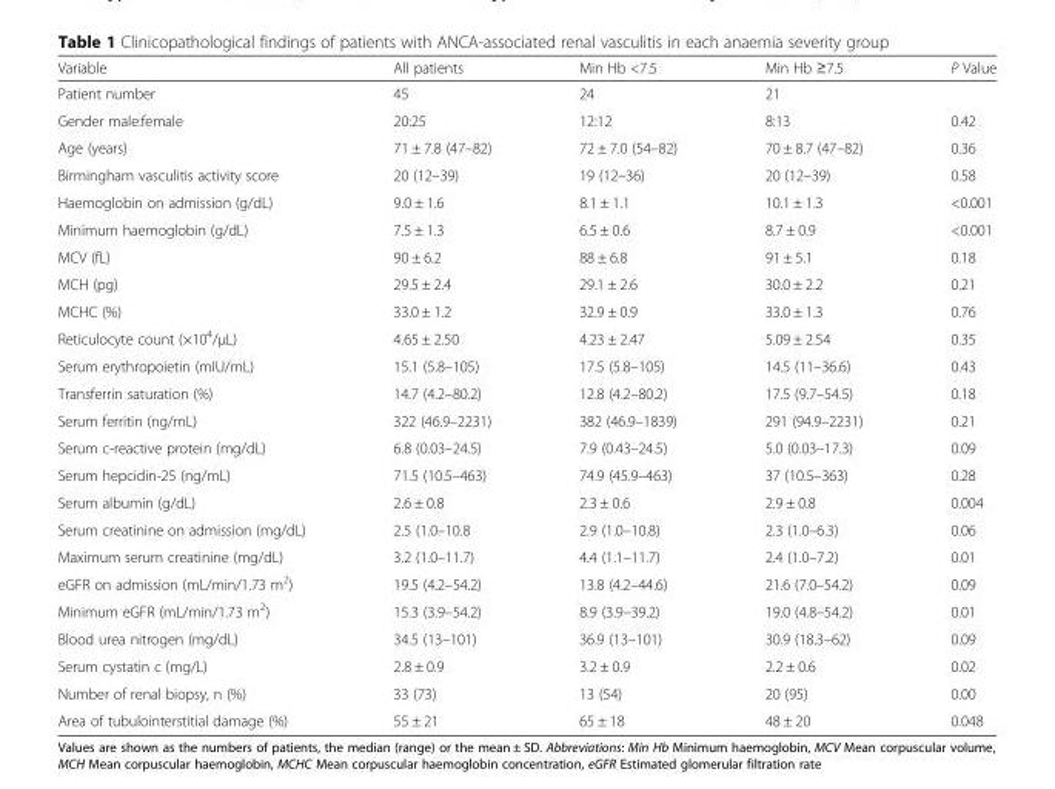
<table><thead><tr><td>Variable</td><td>All patients</td><td>Min Hb &lt;7.5</td><td>Min Hb ≥7.5</td><td>P Value</td></tr></thead><tbody><tr><td>Patient number</td><td>45</td><td>24</td><td>21</td><td></td></tr><tr><td>Gender male:female</td><td>20:25</td><td>12:12</td><td>8:13</td><td>0.42</td></tr><tr><td>Age (years)</td><td>71 ± 7.8 (47–82)</td><td>72 ± 7.0 (54–82)</td><td>70 ± 8.7 (47–82)</td><td>0.36</td></tr><tr><td>Birmingham vasculitis activity score</td><td>20 (12–39)</td><td>19 (12–36)</td><td>20 (12–39)</td><td>0.58</td></tr><tr><td>Haemoglobin on admission (g/dL)</td><td>9.0 ± 1.6</td><td>8.1 ± 1.1</td><td>10.1 ± 1.3</td><td>&lt;0.001</td></tr><tr><td>Minimum haemoglobin (g/dL)</td><td>7.5 ± 1.3</td><td>6.5 ± 0.6</td><td>8.7 ± 0.9</td><td>&lt;0.001</td></tr><tr><td>MCV (fL)</td><td>90 ± 6.2</td><td>88 ± 6.8</td><td>91 ± 5.1</td><td>0.18</td></tr><tr><td>MCH (pg)</td><td>29.5 ± 2.4</td><td>29.1 ± 2.6</td><td>30.0 ± 2.2</td><td>0.21</td></tr><tr><td>MCHC (%)</td><td>33.0 ± 1.2</td><td>32.9 ± 0.9</td><td>33.0 ± 1.3</td><td>0.76</td></tr><tr><td>Reticulocyte count (×10<sup>4</sup>/μL)</td><td>4.65 ± 2.50</td><td>4.23 ± 2.47</td><td>5.09 ± 2.54</td><td>0.35</td></tr><tr><td>Serum erythropoietin (mIU/mL)</td><td>15.1 (5.8–105)</td><td>17.5 (5.8–105)</td><td>14.5 (11–36.6)</td><td>0.43</td></tr><tr><td>Transferrin saturation (%)</td><td>14.7 (4.2–80.2)</td><td>12.8 (4.2–80.2)</td><td>17.5 (9.7–54.5)</td><td>0.18</td></tr><tr><td>Serum ferritin (ng/mL)</td><td>322 (46.9–2231)</td><td>382 (46.9–1839)</td><td>291 (94.9–2231)</td><td>0.21</td></tr><tr><td>Serum c-reactive protein (mg/dL)</td><td>6.8 (0.03–24.5)</td><td>7.9 (0.43–24.5)</td><td>5.0 (0.03–17.3)</td><td>0.09</td></tr><tr><td>Serum hepcidin-25 (ng/mL)</td><td>71.5 (10.5–463)</td><td>74.9 (45.9–463)</td><td>37 (10.5–363)</td><td>0.28</td></tr><tr><td>Serum albumin (g/dL)</td><td>2.6 ± 0.8</td><td>2.3 ± 0.6</td><td>2.9 ± 0.8</td><td>0.004</td></tr><tr><td>Serum creatinine on admission (mg/dL)</td><td>2.5 (1.0–10.8</td><td>2.9 (1.0–10.8)</td><td>2.3 (1.0–6.3)</td><td>0.06</td></tr><tr><td>Maximum serum creatinine (mg/dL)</td><td>3.2 (1.0–11.7)</td><td>4.4 (1.1–11.7)</td><td>2.4 (1.0–7.2)</td><td>0.01</td></tr><tr><td>eGFR on admission (mL/min/1.73 m<sup>2</sup>)</td><td>19.5 (4.2–54.2)</td><td>13.8 (4.2–44.6)</td><td>21.6 (7.0–54.2)</td><td>0.09</td></tr><tr><td>Minimum eGFR (mL/min/1.73 m<sup>2</sup>)</td><td>15.3 (3.9–54.2)</td><td>8.9 (3.9–39.2)</td><td>19.0 (4.8–54.2)</td><td>0.01</td></tr><tr><td>Blood urea nitrogen (mg/dL)</td><td>34.5 (13–101)</td><td>36.9 (13–101)</td><td>30.9 (18.3–62)</td><td>0.09</td></tr><tr><td>Serum cystatin c (mg/L)</td><td>2.8 ± 0.9</td><td>3.2 ± 0.9</td><td>2.2 ± 0.6</td><td>0.02</td></tr><tr><td>Number of renal biopsy, n (%)</td><td>33 (73)</td><td>13 (54)</td><td>20 (95)</td><td>0.00</td></tr><tr><td>Area of tubulointerstitial damage (%)</td><td>55 ± 21</td><td>65 ± 18</td><td>48 ± 20</td><td>0.048</td></tr></tbody></table>